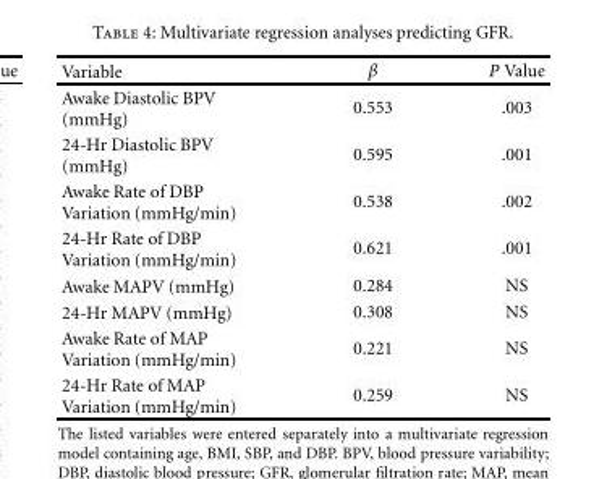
<table><thead><tr><td>Variable</td><td>β</td><td>P Value</td></tr></thead><tbody><tr><td>Awake Diastolic BPV (mmHg)</td><td>0.553</td><td>.003</td></tr><tr><td>24-Hr Diastolic BPV (mmHg)</td><td>0.595</td><td>.001</td></tr><tr><td>Awake Rate of DBP Variation (mmHg/min)</td><td>0.538</td><td>.002</td></tr><tr><td>24-Hr Rate of DBP Variation (mmHg/min)</td><td>0.621</td><td>.001</td></tr><tr><td>Awake MAPV (mmHg)</td><td>0.284</td><td>NS</td></tr><tr><td>24-Hr MAPV (mmHg)</td><td>0.308</td><td>NS</td></tr><tr><td>Awake Rate of MAP Variation (mmHg/min)</td><td>0.221</td><td>NS</td></tr><tr><td>24-Hr Rate of MAP Variation (mmHg/min)</td><td>0.259</td><td>NS</td></tr></tbody></table>